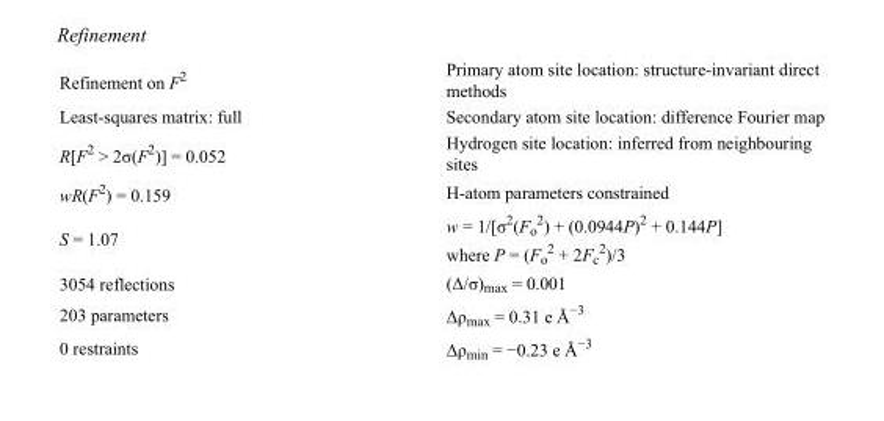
<table><tbody><tr><td>Refinement on F<sup>2</sup></td><td>Primary atom site location: structure-invariant direct methods</td></tr><tr><td>Least-squares matrix: full</td><td>Secondary atom site location: difference Fourier map</td></tr><tr><td>R[F<sup>2</sup> &gt; 2σ(F<sup>2</sup>)] = 0.052</td><td>Hydrogen site location: inferred from neighbouring sites</td></tr><tr><td>wR(F<sup>2</sup>) = 0.159</td><td>H-atom parameters constrained</td></tr><tr><td>S = 1.07</td><td>w = 1/[σ<sup>2</sup>(F<sub>o</sub> <sup>2</sup>) + (0.0944P)<sup>2</sup> + 0.144P] where P = (F<sub>o</sub> <sup>2</sup> + 2F<sub>c</sub> <sup>2</sup>)/3</td></tr><tr><td>3054 reflections</td><td>(Δ/σ)<sub>max</sub> = 0.001</td></tr><tr><td>203 parameters</td><td>Δρ<sub>max</sub> = 0.31 e Å<sup>−3</sup></td></tr><tr><td>0 restraints</td><td>Δρ<sub>min</sub> = −0.23 e Å<sup>−3</sup></td></tr></tbody></table>